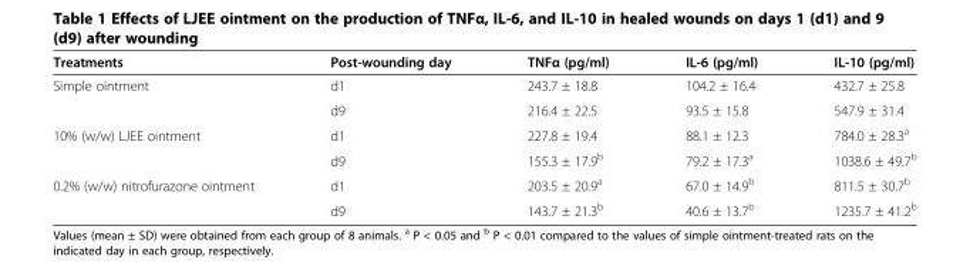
<table><thead><tr><td>Treatments</td><td>Post-wounding day</td><td>TNFα (pg/ml)</td><td>IL-6 (pg/ml)</td><td>IL-10 (pg/ml)</td></tr></thead><tbody><tr><td rowspan="2">Simple ointment</td><td>d1</td><td>243.7 ± 18.8</td><td>104.2 ± 16.4</td><td>432.7 ± 25.8</td></tr><tr><td>d9</td><td>216.4 ± 22.5</td><td>93.5 ± 15.8</td><td>547.9 ± 31.4</td></tr><tr><td rowspan="2">10% (w/w) LJEE ointment</td><td>d1</td><td>227.8 ± 19.4</td><td>88.1 ± 12.3</td><td>784.0 ± 28.3<sup>a</sup></td></tr><tr><td>d9</td><td>155.3 ± 17.9<sup>b</sup></td><td>79.2 ± 17.3<sup>a</sup></td><td>1038.6 ± 49.7<sup>b</sup></td></tr><tr><td rowspan="2">0.2% (w/w) nitrofurazone ointment</td><td>d1</td><td>203.5 ± 20.9<sup>a</sup></td><td>67.0 ± 14.9<sup>b</sup></td><td>811.5 ± 30.7<sup>b</sup></td></tr><tr><td>d9</td><td>143.7 ± 21.3<sup>b</sup></td><td>40.6 ± 13.7<sup>b</sup></td><td>1235.7 ± 41.2<sup>b</sup></td></tr></tbody></table>